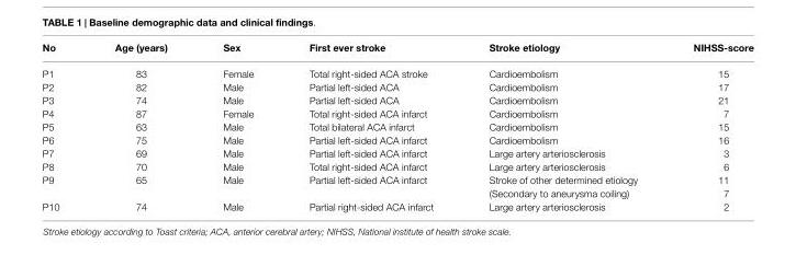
<table><thead><tr><td>No</td><td>Age (years)</td><td>Sex</td><td>First ever stroke</td><td>Stroke etiology</td><td>NIHSS-score</td></tr></thead><tbody><tr><td>P1</td><td>83</td><td>Female</td><td>Total right-sided ACA stroke</td><td>Cardioembolism</td><td>15</td></tr><tr><td>P2</td><td>82</td><td>Male</td><td>Partial left-sided ACA</td><td>Cardioembolism</td><td>17</td></tr><tr><td>P3</td><td>74</td><td>Male</td><td>Partial left-sided ACA</td><td>Cardioembolism</td><td>21</td></tr><tr><td>P4</td><td>87</td><td>Female</td><td>Total right-sided ACA infarct</td><td>Cardioembolism</td><td>7</td></tr><tr><td>P5</td><td>63</td><td>Male</td><td>Total bilateral ACA infarct</td><td>Cardioembolism</td><td>15</td></tr><tr><td>P6</td><td>75</td><td>Male</td><td>Partial left-sided ACA infarct</td><td>Cardioembolism</td><td>16</td></tr><tr><td>P7</td><td>69</td><td>Male</td><td>Partial left-sided ACA infarct</td><td>Large artery arteriosclerosis</td><td>3</td></tr><tr><td>P8</td><td>70</td><td>Male</td><td>Total right-sided ACA infarct</td><td>Large artery arteriosclerosis</td><td>6</td></tr><tr><td rowspan="2">P9</td><td>65</td><td>Male</td><td>Partial left-sided ACA infarct</td><td>Stroke of other determined etiology</td><td>11</td></tr><tr><td></td><td></td><td></td><td>(Secondary to aneurysma coiling)</td><td>7</td></tr><tr><td>P10</td><td>74</td><td>Male</td><td>Partial right-sided ACA infarct</td><td>Large artery arteriosclerosis</td><td>2</td></tr></tbody></table>